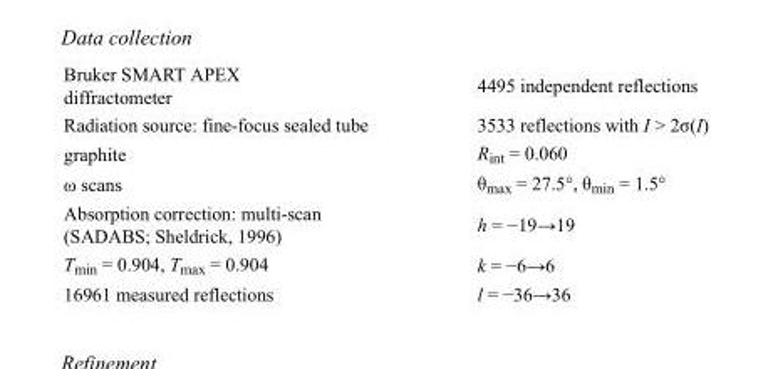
<table><tbody><tr><td>Bruker SMART APEX diffractometer</td><td>4495 independent reflections</td></tr><tr><td>Radiation source: fine-focus sealed tube</td><td>3533 reflections with I &gt; 2σ(I)</td></tr><tr><td>graphite</td><td>R<sub>int</sub> = 0.060</td></tr><tr><td>ω scans</td><td>θ<sub>max</sub> = 27.5°, θ<sub>min</sub> = 1.5°</td></tr><tr><td>Absorption correction: multi-scan (SADABS; Sheldrick, 1996)</td><td>h = −19→19</td></tr><tr><td>T<sub>min</sub> = 0.904, T<sub>max</sub> = 0.904</td><td>k = −6→6</td></tr><tr><td>16961 measured reflections</td><td>l = −36→36</td></tr></tbody></table>